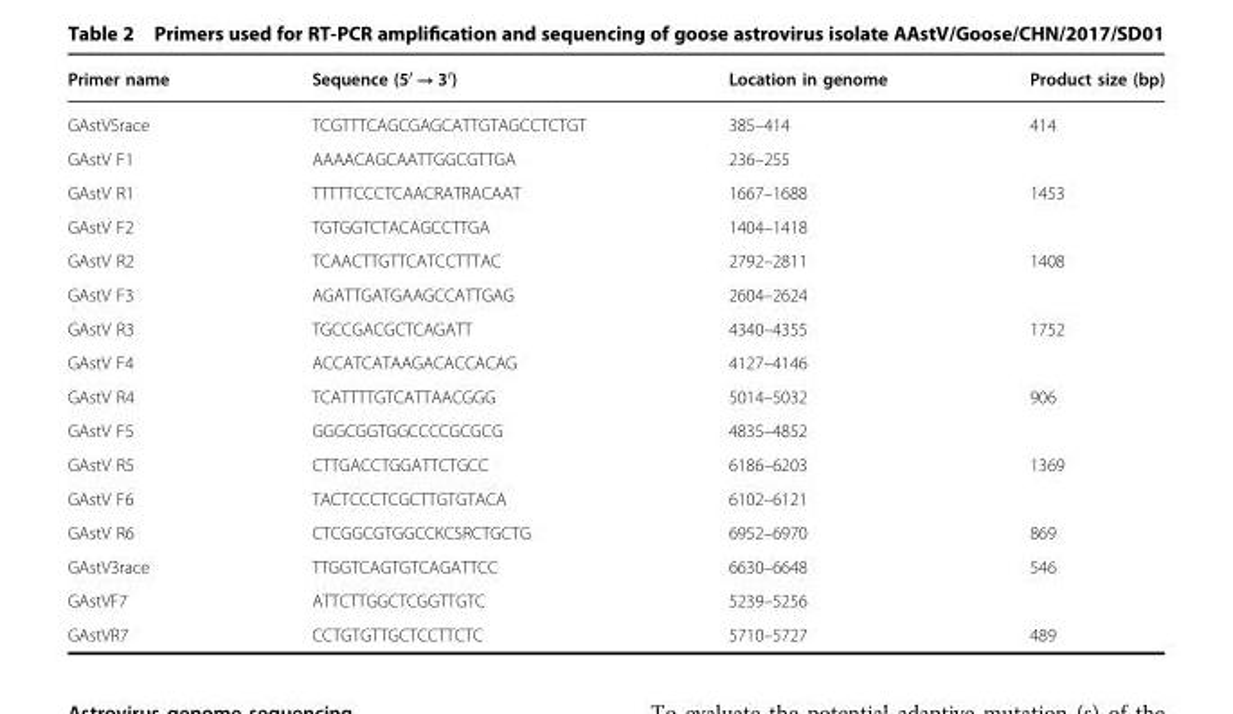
<table><thead><tr><td>Primer name</td><td>Sequence (5′ → 3′)</td><td>Location in genome</td><td>Product size (bp)</td></tr></thead><tbody><tr><td>GAstV5race</td><td>TCGTTTCAGCGAGCATTGTAGCCTCTGT</td><td>385–414</td><td rowspan="2">414</td></tr><tr><td>GAstV F1</td><td>AAAACAGCAATTGGCGTTGA</td><td>236–255</td></tr><tr><td>GAstV R1</td><td>TTTTTCCCTCAACRATRACAAT</td><td>1667–1688</td><td rowspan="2">1453</td></tr><tr><td>GAstV F2</td><td>TGTGGTCTACAGCCTTGA</td><td>1404–1418</td></tr><tr><td>GAstV R2</td><td>TCAACTTGTTCATCCTTTAC</td><td>2792–2811</td><td rowspan="2">1408</td></tr><tr><td>GAstV F3</td><td>AGATTGATGAAGCCATTGAG</td><td>2604–2624</td></tr><tr><td>GAstV R3</td><td>TGCCGACGCTCAGATT</td><td>4340–4355</td><td rowspan="2">1752</td></tr><tr><td>GAstV F4</td><td>ACCATCATAAGACACCACAG</td><td>4127–4146</td></tr><tr><td>GAstV R4</td><td>TCATTTTGTCATTAACGGG</td><td>5014–5032</td><td rowspan="2">906</td></tr><tr><td>GAstV F5</td><td>GGGCGGTGGCCCCGCGCG</td><td>4835–4852</td></tr><tr><td>GAstV R5</td><td>CTTGACCTGGATTCTGCC</td><td>6186–6203</td><td rowspan="2">1369</td></tr><tr><td>GAstV F6</td><td>TACTCCCTCGCTTGTGTACA</td><td>6102–6121</td></tr><tr><td>GAstV R6</td><td>CTCGGCGTGGCCKCSRCTGCTG</td><td>6952–6970</td><td>869</td></tr><tr><td>GAstV3race</td><td>TTGGTCAGTGTCAGATTCC</td><td>6630–6648</td><td rowspan="2">546</td></tr><tr><td>GAstVF7</td><td>ATTCTTGGCTCGGTTGTC</td><td>5239–5256</td></tr><tr><td>GAstVR7</td><td>CCTGTGTTGCTCCTTCTC</td><td>5710–5727</td><td>489</td></tr></tbody></table>